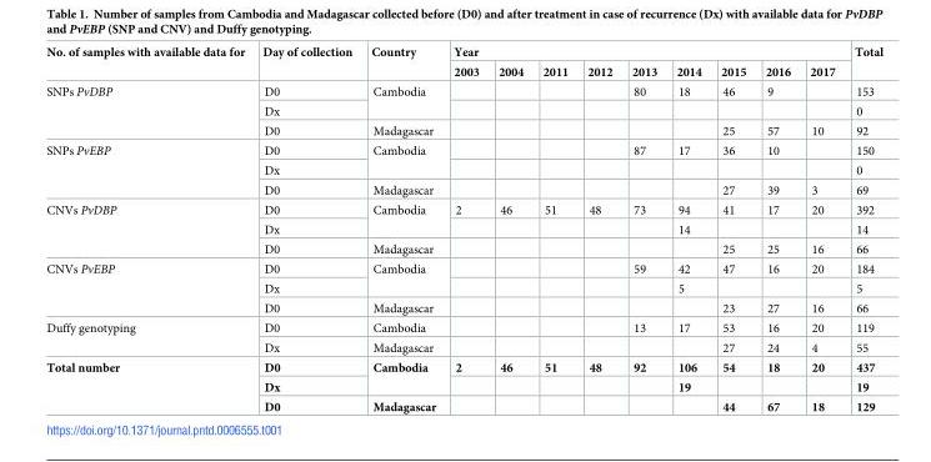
<table><thead><tr><td rowspan="2">No. of samples with available data for</td><td rowspan="2">Day of collection</td><td rowspan="2">Country</td><td colspan="9">Year</td><td rowspan="2">Total</td></tr><tr><td>2003</td><td>2004</td><td>2011</td><td>2012</td><td>2013</td><td>2014</td><td>2015</td><td>2016</td><td>2017</td></tr></thead><tbody><tr><td rowspan="3">SNPs PvDBP</td><td>D0</td><td rowspan="2">Cambodia</td><td></td><td></td><td></td><td></td><td>80</td><td>18</td><td>46</td><td>9</td><td></td><td>153</td></tr><tr><td>Dx</td><td></td><td></td><td></td><td></td><td></td><td></td><td></td><td></td><td></td><td>0</td></tr><tr><td>D0</td><td>Madagascar</td><td></td><td></td><td></td><td></td><td></td><td></td><td>25</td><td>57</td><td>10</td><td>92</td></tr><tr><td rowspan="3">SNPs PvEBP</td><td>D0</td><td rowspan="2">Cambodia</td><td></td><td></td><td></td><td></td><td>87</td><td>17</td><td>36</td><td>10</td><td></td><td>150</td></tr><tr><td>Dx</td><td></td><td></td><td></td><td></td><td></td><td></td><td></td><td></td><td></td><td>0</td></tr><tr><td>D0</td><td>Madagascar</td><td></td><td></td><td></td><td></td><td></td><td></td><td>27</td><td>39</td><td>3</td><td>69</td></tr><tr><td rowspan="3">CNVs PvDBP</td><td>D0</td><td rowspan="2">Cambodia</td><td>2</td><td>46</td><td>51</td><td>48</td><td>73</td><td>94</td><td>41</td><td>17</td><td>20</td><td>392</td></tr><tr><td>Dx</td><td></td><td></td><td></td><td></td><td></td><td>14</td><td></td><td></td><td></td><td>14</td></tr><tr><td>D0</td><td>Madagascar</td><td></td><td></td><td></td><td></td><td></td><td></td><td>25</td><td>25</td><td>16</td><td>66</td></tr><tr><td rowspan="3">CNVs PvEBP</td><td>D0</td><td rowspan="2">Cambodia</td><td></td><td></td><td></td><td></td><td>59</td><td>42</td><td>47</td><td>16</td><td>20</td><td>184</td></tr><tr><td>Dx</td><td></td><td></td><td></td><td></td><td></td><td>5</td><td></td><td></td><td></td><td>5</td></tr><tr><td>D0</td><td>Madagascar</td><td></td><td></td><td></td><td></td><td></td><td></td><td>23</td><td>27</td><td>16</td><td>66</td></tr><tr><td rowspan="2">Duffy genotyping</td><td>D0</td><td>Cambodia</td><td></td><td></td><td></td><td></td><td>13</td><td>17</td><td>53</td><td>16</td><td>20</td><td>119</td></tr><tr><td>Dx</td><td>Madagascar</td><td></td><td></td><td></td><td></td><td></td><td></td><td>27</td><td>24</td><td>4</td><td>55</td></tr><tr><td rowspan="3">Total number</td><td>D0</td><td rowspan="2">Cambodia</td><td>2</td><td>46</td><td>51</td><td>48</td><td>92</td><td>106</td><td>54</td><td>18</td><td>20</td><td>437</td></tr><tr><td>Dx</td><td></td><td></td><td></td><td></td><td></td><td>19</td><td></td><td></td><td></td><td>19</td></tr><tr><td>D0</td><td>Madagascar</td><td></td><td></td><td></td><td></td><td></td><td></td><td>44</td><td>67</td><td>18</td><td>129</td></tr></tbody></table>